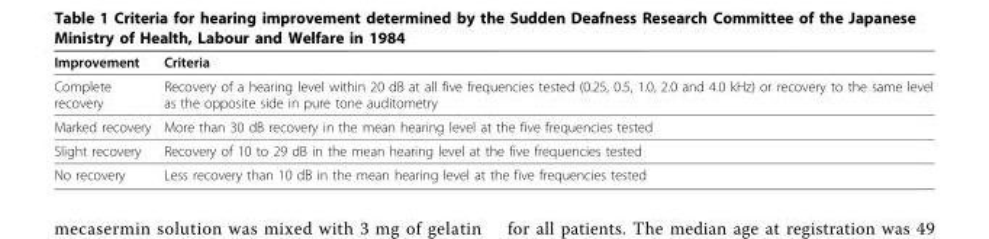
<table><thead><tr><td>Improvement</td><td>Criteria</td></tr></thead><tbody><tr><td>Complete recovery</td><td>Recovery of a hearing level within 20 dB at all five frequencies tested (0.25, 0.5, 1.0, 2.0 and 4.0 kHz) or recovery to the same level as the opposite side in pure tone auditometry</td></tr><tr><td>Marked recovery</td><td>More than 30 dB recovery in the mean hearing level at the five frequencies tested</td></tr><tr><td>Slight recovery</td><td>Recovery of 10 to 29 dB in the mean hearing level at the five frequencies tested</td></tr><tr><td>No recovery</td><td>Less recovery than 10 dB in the mean hearing level at the five frequencies tested</td></tr></tbody></table>